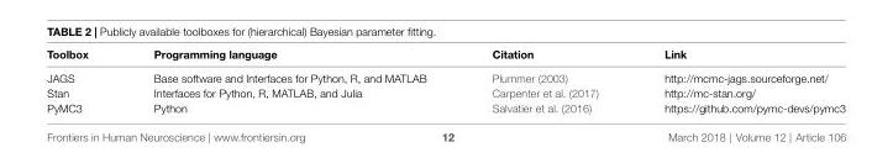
<table><thead><tr><td>Toolbox</td><td>Programming language</td><td>Citation</td><td>Link</td></tr></thead><tbody><tr><td>JAGS</td><td>Base software and Interfaces for Python, R, and MATLAB</td><td>Plummer (2003)</td><td>http://mcmc-jags.sourceforge.net/</td></tr><tr><td>Stan</td><td>Interfaces for Python, R, MATLAB, and Julia</td><td>Carpenter et al. (2017)</td><td>http://mc-stan.org/</td></tr><tr><td>PyMC3</td><td>Python</td><td>Salvatier et al. (2016)</td><td>https://github.com/pymc-devs/pymc3</td></tr></tbody></table>